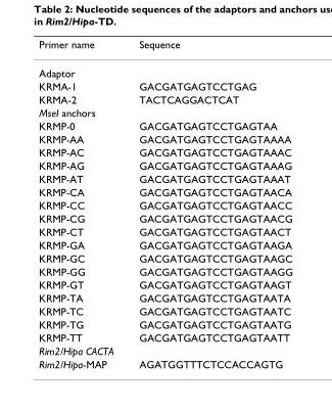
<table><thead><tr><td>Primer name</td><td>Sequence</td></tr></thead><tbody><tr><td colspan="2">Adaptor</td></tr><tr><td>KRMA-1</td><td>GACGATGAGTCCTGAG</td></tr><tr><td>KRMA-2</td><td>TACTCAGGACTCAT</td></tr><tr><td colspan="2">MseI anchors</td></tr><tr><td>KRMP-0</td><td>GACGATGAGTCCTGAGTAA</td></tr><tr><td>KRMP-AA</td><td>GACGATGAGTCCTGAGTAAAA</td></tr><tr><td>KRMP-AC</td><td>GACGATGAGTCCTGAGTAAAC</td></tr><tr><td>KRMP-AG</td><td>GACGATGAGTCCTGAGTAAAG</td></tr><tr><td>KRMP-AT</td><td>GACGATGAGTCCTGAGTAAAT</td></tr><tr><td>KRMP-CA</td><td>GACGATGAGTCCTGAGTAACA</td></tr><tr><td>KRMP-CC</td><td>GACGATGAGTCCTGAGTAACC</td></tr><tr><td>KRMP-CG</td><td>GACGATGAGTCCTGAGTAACG</td></tr><tr><td>KRMP-CT</td><td>GACGATGAGTCCTGAGTAACT</td></tr><tr><td>KRMP-GA</td><td>GACGATGAGTCCTGAGTAAGA</td></tr><tr><td>KRMP-GC</td><td>GACGATGAGTCCTGAGTAAGC</td></tr><tr><td>KRMP-GG</td><td>GACGATGAGTCCTGAGTAAGG</td></tr><tr><td>KRMP-GT</td><td>GACGATGAGTCCTGAGTAAGT</td></tr><tr><td>KRMP-TA</td><td>GACGATGAGTCCTGAGTAATA</td></tr><tr><td>KRMP-TC</td><td>GACGATGAGTCCTGAGTAATC</td></tr><tr><td>KRMP-TG</td><td>GACGATGAGTCCTGAGTAATG</td></tr><tr><td>KRMP-TT</td><td>GACGATGAGTCCTGAGTAATT</td></tr><tr><td colspan="2">Rim2/Hipa CACTA</td></tr><tr><td>Rim2/Hipa-MAP</td><td>AGATGGTTTCTCCACCAGTG</td></tr></tbody></table>